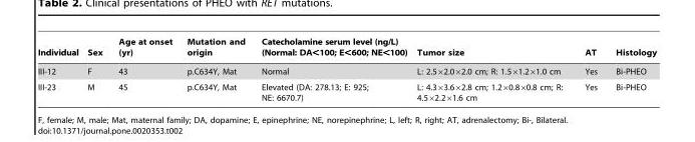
<table><thead><tr><td>Individual</td><td>Sex</td><td>Age at onset (yr)</td><td>Mutation and origin</td><td>Catecholamine serum level (ng/L) (Normal: DA&lt;100; E&lt;600; NE&lt;100)</td><td>Tumor size</td><td>AT</td><td>Histology</td></tr></thead><tbody><tr><td>III-12</td><td>F</td><td>43</td><td>p.C634Y, Mat</td><td>Normal</td><td>L: 2.5×2.0×2.0 cm; R: 1.5×1.2×1.0 cm</td><td>Yes</td><td>Bi-PHEO</td></tr><tr><td>III-23</td><td>M</td><td>45</td><td>p.C634Y, Mat</td><td>Elevated (DA: 278.13; E: 925; NE: 6670.7)</td><td>L: 4.3×3.6×2.8 cm; 1.2×0.8×0.8 cm; R: 4.5×2.2×1.6 cm</td><td>Yes</td><td>Bi-PHEO</td></tr></tbody></table>